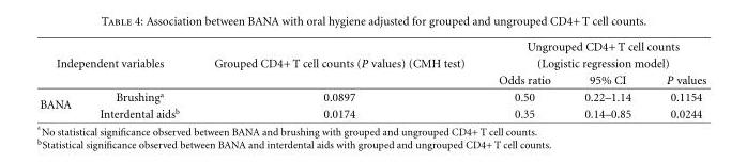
<table><thead><tr><td></td><td></td><td rowspan="3">Grouped CD4+ T cell counts (P values) (CMH test)</td><td rowspan="2" colspan="3">Ungrouped CD4+ T cell counts (Logistic regression model)</td></tr><tr><td colspan="2">Independent variables</td></tr><tr><td></td><td></td><td>Odds ratio</td><td>95% CI</td><td>P values</td></tr></thead><tbody><tr><td rowspan="2">BANA</td><td>Brushing<sup>a</sup></td><td>0.0897</td><td>0.50</td><td>0.22–1.14</td><td>0.1154</td></tr><tr><td>Interdental aids<sup>b</sup></td><td>0.0174</td><td>0.35</td><td>0.14–0.85</td><td>0.0244</td></tr></tbody></table>